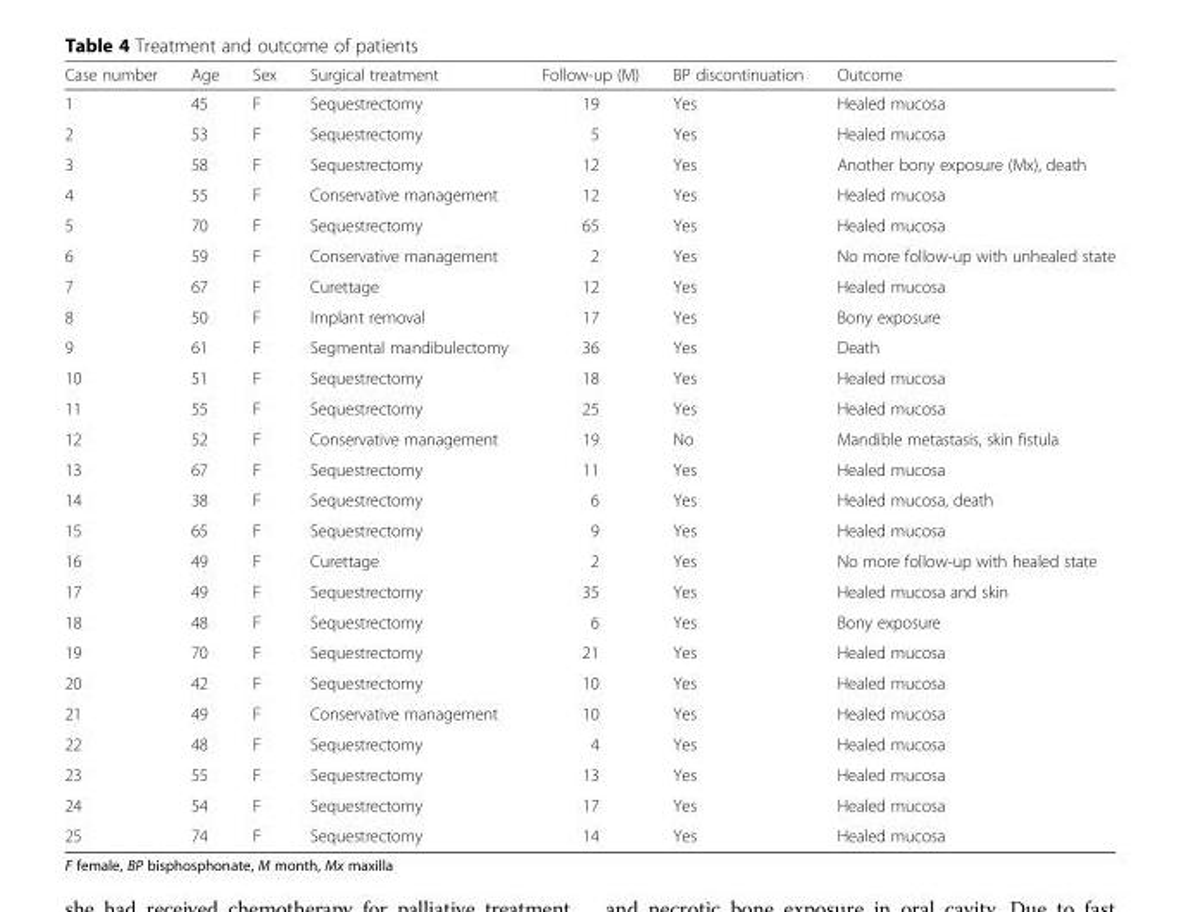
<table><thead><tr><td>Case number</td><td>Age</td><td>Sex</td><td>Surgical treatment</td><td>Follow-up (M)</td><td>BP discontinuation</td><td>Outcome</td></tr></thead><tbody><tr><td>1</td><td>45</td><td>F</td><td>Sequestrectomy</td><td>19</td><td>Yes</td><td>Healed mucosa</td></tr><tr><td>2</td><td>53</td><td>F</td><td>Sequestrectomy</td><td>5</td><td>Yes</td><td>Healed mucosa</td></tr><tr><td>3</td><td>58</td><td>F</td><td>Sequestrectomy</td><td>12</td><td>Yes</td><td>Another bony exposure (Mx), death</td></tr><tr><td>4</td><td>55</td><td>F</td><td>Conservative management</td><td>12</td><td>Yes</td><td>Healed mucosa</td></tr><tr><td>5</td><td>70</td><td>F</td><td>Sequestrectomy</td><td>65</td><td>Yes</td><td>Healed mucosa</td></tr><tr><td>6</td><td>59</td><td>F</td><td>Conservative management</td><td>2</td><td>Yes</td><td>No more follow-up with unhealed state</td></tr><tr><td>7</td><td>67</td><td>F</td><td>Curettage</td><td>12</td><td>Yes</td><td>Healed mucosa</td></tr><tr><td>8</td><td>50</td><td>F</td><td>Implant removal</td><td>17</td><td>Yes</td><td>Bony exposure</td></tr><tr><td>9</td><td>61</td><td>F</td><td>Segmental mandibulectomy</td><td>36</td><td>Yes</td><td>Death</td></tr><tr><td>10</td><td>51</td><td>F</td><td>Sequestrectomy</td><td>18</td><td>Yes</td><td>Healed mucosa</td></tr><tr><td>11</td><td>55</td><td>F</td><td>Sequestrectomy</td><td>25</td><td>Yes</td><td>Healed mucosa</td></tr><tr><td>12</td><td>52</td><td>F</td><td>Conservative management</td><td>19</td><td>No</td><td>Mandible metastasis, skin fistula</td></tr><tr><td>13</td><td>67</td><td>F</td><td>Sequestrectomy</td><td>11</td><td>Yes</td><td>Healed mucosa</td></tr><tr><td>14</td><td>38</td><td>F</td><td>Sequestrectomy</td><td>6</td><td>Yes</td><td>Healed mucosa, death</td></tr><tr><td>15</td><td>65</td><td>F</td><td>Sequestrectomy</td><td>9</td><td>Yes</td><td>Healed mucosa</td></tr><tr><td>16</td><td>49</td><td>F</td><td>Curettage</td><td>2</td><td>Yes</td><td>No more follow-up with healed state</td></tr><tr><td>17</td><td>49</td><td>F</td><td>Sequestrectomy</td><td>35</td><td>Yes</td><td>Healed mucosa and skin</td></tr><tr><td>18</td><td>48</td><td>F</td><td>Sequestrectomy</td><td>6</td><td>Yes</td><td>Bony exposure</td></tr><tr><td>19</td><td>70</td><td>F</td><td>Sequestrectomy</td><td>21</td><td>Yes</td><td>Healed mucosa</td></tr><tr><td>20</td><td>42</td><td>F</td><td>Sequestrectomy</td><td>10</td><td>Yes</td><td>Healed mucosa</td></tr><tr><td>21</td><td>49</td><td>F</td><td>Conservative management</td><td>10</td><td>Yes</td><td>Healed mucosa</td></tr><tr><td>22</td><td>48</td><td>F</td><td>Sequestrectomy</td><td>4</td><td>Yes</td><td>Healed mucosa</td></tr><tr><td>23</td><td>55</td><td>F</td><td>Sequestrectomy</td><td>13</td><td>Yes</td><td>Healed mucosa</td></tr><tr><td>24</td><td>54</td><td>F</td><td>Sequestrectomy</td><td>17</td><td>Yes</td><td>Healed mucosa</td></tr><tr><td>25</td><td>74</td><td>F</td><td>Sequestrectomy</td><td>14</td><td>Yes</td><td>Healed mucosa</td></tr></tbody></table>